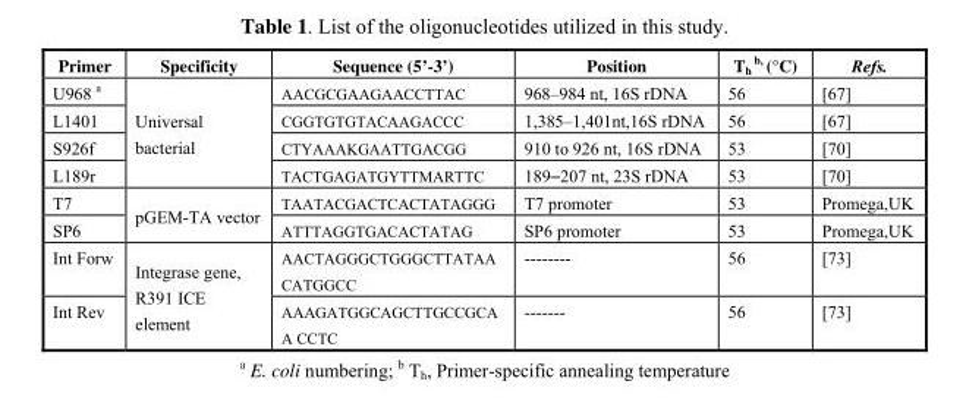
<table><thead><tr><td>Primer</td><td>Specificity</td><td>Sequence (5’-3’)</td><td>Position</td><td>T<sub>h</sub> <sup>b</sup>, (°C)</td><td>Refs.</td></tr></thead><tbody><tr><td>U968 a</td><td rowspan="4">Universal bacterial</td><td>AACGCGAAGAACCTTAC</td><td>968–984 nt, 16S rDNA</td><td>56</td><td>[67]</td></tr><tr><td>L1401</td><td>CGGTGTGTACAAGACCC</td><td>1,385–1,401nt,16S rDNA</td><td>56</td><td>[67]</td></tr><tr><td>S926f</td><td>CTYAAAKGAATTGACGG</td><td>910 to 926 nt, 16S rDNA</td><td>53</td><td>[70]</td></tr><tr><td>L189r</td><td>TACTGAGATGYTTMARTTC</td><td>189–207 nt, 23S rDNA</td><td>53</td><td>[70]</td></tr><tr><td>T7</td><td rowspan="2">pGEM-TA vector</td><td>TAATACGACTCACTATAGGG</td><td>T7 promoter</td><td>53</td><td>Promega,UK</td></tr><tr><td>SP6</td><td>ATTTAGGTGACACTATAG</td><td>SP6 promoter</td><td>53</td><td>Promega,UK</td></tr><tr><td>Int Forw</td><td rowspan="2">Integrase gene, R391 ICE element</td><td>AACTAGGGCTGGGCTTATAA CATGGCC</td><td>--------</td><td>56</td><td>[73]</td></tr><tr><td>Int Rev</td><td>AAAGATGGCAGCTTGCCGCA A CCTC</td><td>-------</td><td>56</td><td>[73]</td></tr></tbody></table>